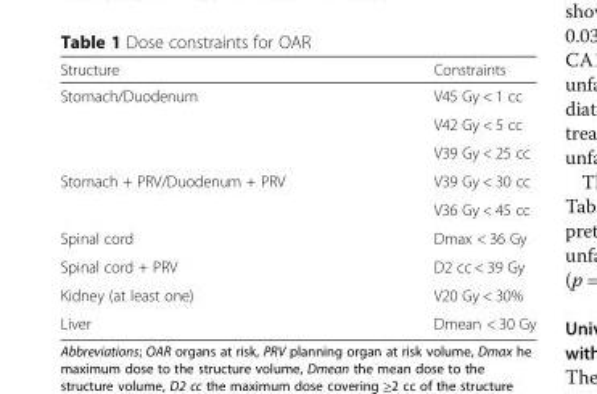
<table><thead><tr><td>Structure</td><td>Constraints</td></tr></thead><tbody><tr><td rowspan="3">Stomach/Duodenum</td><td>V45 Gy &lt; 1 cc</td></tr><tr><td>V42 Gy &lt; 5 cc</td></tr><tr><td>V39 Gy &lt; 25 cc</td></tr><tr><td rowspan="2">Stomach + PRV/Duodenum + PRV</td><td>V39 Gy &lt; 30 cc</td></tr><tr><td>V36 Gy &lt; 45 cc</td></tr><tr><td>Spinal cord</td><td>Dmax &lt; 36 Gy</td></tr><tr><td>Spinal cord + PRV</td><td>D2 cc &lt; 39 Gy</td></tr><tr><td>Kidney (at least one)</td><td>V20 Gy &lt; 30%</td></tr><tr><td>Liver</td><td>Dmean &lt; 30 Gy</td></tr></tbody></table>